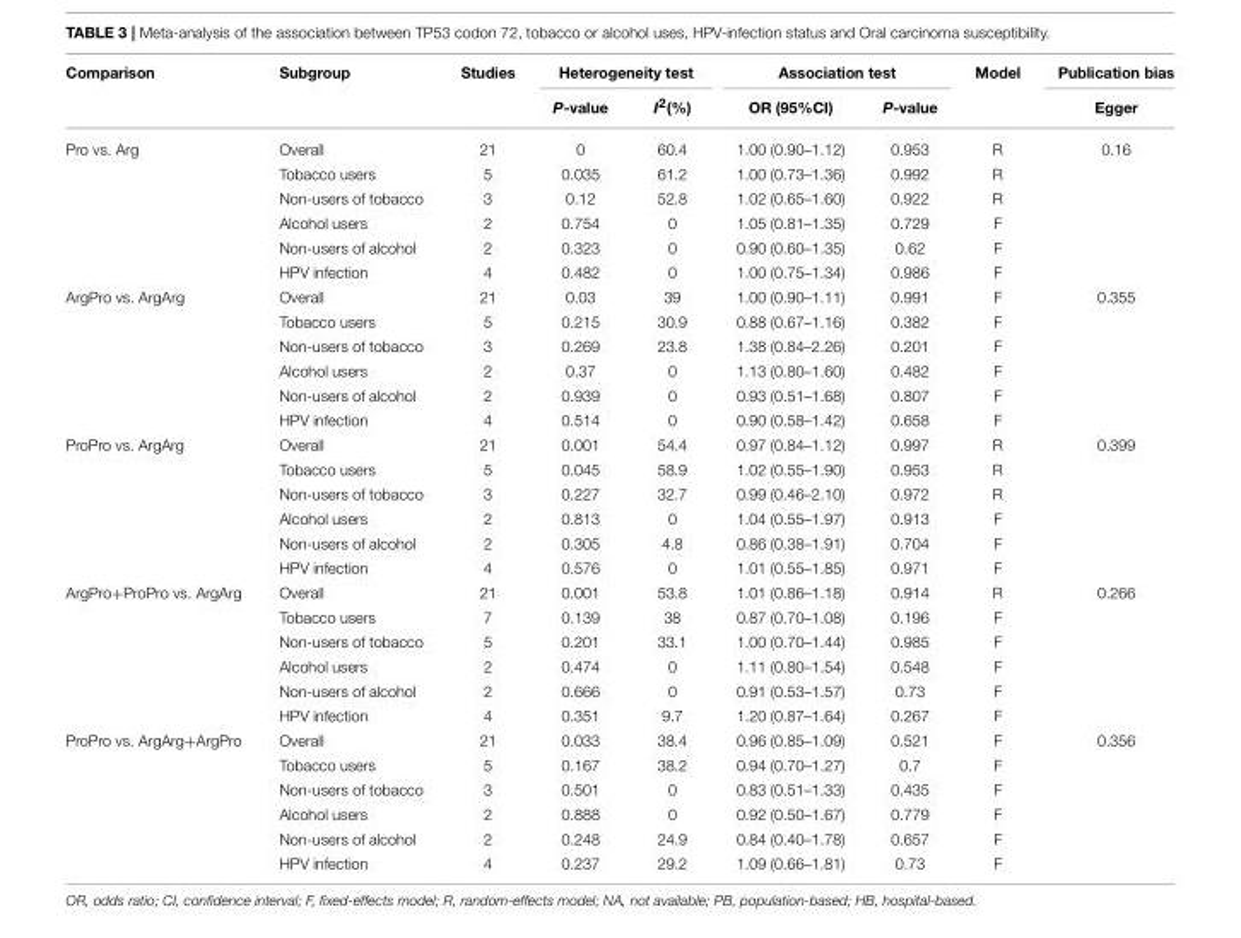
<table><thead><tr><td rowspan="2">Comparison</td><td rowspan="2">Subgroup</td><td rowspan="2">Studies</td><td colspan="2">Heterogeneity test</td><td colspan="2">Association test</td><td rowspan="2">Model</td><td rowspan="2">Publication bias Egger</td></tr><tr><td>P-value</td><td>I<sup>2</sup>(%)</td><td>OR (95%CI)</td><td>P-value</td></tr></thead><tbody><tr><td rowspan="6">Pro vs. Arg</td><td>Overall</td><td>21</td><td>0</td><td>60.4</td><td>1.00 (0.90–1.12)</td><td>0.953</td><td>R</td><td>0.16</td></tr><tr><td>Tobacco users</td><td>5</td><td>0.035</td><td>61.2</td><td>1.00 (0.73–1.36)</td><td>0.992</td><td>R</td><td></td></tr><tr><td>Non-users of tobacco</td><td>3</td><td>0.12</td><td>52.8</td><td>1.02 (0.65–1.60)</td><td>0.922</td><td>R</td><td></td></tr><tr><td>Alcohol users</td><td>2</td><td>0.754</td><td>0</td><td>1.05 (0.81–1.35)</td><td>0.729</td><td>F</td><td></td></tr><tr><td>Non-users of alcohol</td><td>2</td><td>0.323</td><td>0</td><td>0.90 (0.60–1.35)</td><td>0.62</td><td>F</td><td></td></tr><tr><td>HPV infection</td><td>4</td><td>0.482</td><td>0</td><td>1.00 (0.75–1.34)</td><td>0.986</td><td>F</td><td></td></tr><tr><td rowspan="6">ArgPro vs. ArgArg</td><td>Overall</td><td>21</td><td>0.03</td><td>39</td><td>1.00 (0.90–1.11)</td><td>0.991</td><td>F</td><td>0.355</td></tr><tr><td>Tobacco users</td><td>5</td><td>0.215</td><td>30.9</td><td>0.88 (0.67–1.16)</td><td>0.382</td><td>F</td><td></td></tr><tr><td>Non-users of tobacco</td><td>3</td><td>0.269</td><td>23.8</td><td>1.38 (0.84–2.26)</td><td>0.201</td><td>F</td><td></td></tr><tr><td>Alcohol users</td><td>2</td><td>0.37</td><td>0</td><td>1.13 (0.80–1.60)</td><td>0.482</td><td>F</td><td></td></tr><tr><td>Non-users of alcohol</td><td>2</td><td>0.939</td><td>0</td><td>0.93 (0.51–1.68)</td><td>0.807</td><td>F</td><td></td></tr><tr><td>HPV infection</td><td>4</td><td>0.514</td><td>0</td><td>0.90 (0.58–1.42)</td><td>0.658</td><td>F</td><td></td></tr><tr><td rowspan="6">ProPro vs. ArgArg</td><td>Overall</td><td>21</td><td>0.001</td><td>54.4</td><td>0.97 (0.84–1.12)</td><td>0.997</td><td>R</td><td>0.399</td></tr><tr><td>Tobacco users</td><td>5</td><td>0.045</td><td>58.9</td><td>1.02 (0.55–1.90)</td><td>0.953</td><td>R</td><td></td></tr><tr><td>Non-users of tobacco</td><td>3</td><td>0.227</td><td>32.7</td><td>0.99 (0.46–2.10)</td><td>0.972</td><td>R</td><td></td></tr><tr><td>Alcohol users</td><td>2</td><td>0.813</td><td>0</td><td>1.04 (0.55–1.97)</td><td>0.913</td><td>F</td><td></td></tr><tr><td>Non-users of alcohol</td><td>2</td><td>0.305</td><td>4.8</td><td>0.86 (0.38–1.91)</td><td>0.704</td><td>F</td><td></td></tr><tr><td>HPV infection</td><td>4</td><td>0.576</td><td>0</td><td>1.01 (0.55–1.85)</td><td>0.971</td><td>F</td><td></td></tr><tr><td rowspan="6">ArgPro+ProPro vs. ArgArg</td><td>Overall</td><td>21</td><td>0.001</td><td>53.8</td><td>1.01 (0.86–1.18)</td><td>0.914</td><td>R</td><td>0.266</td></tr><tr><td>Tobacco users</td><td>7</td><td>0.139</td><td>38</td><td>0.87 (0.70–1.08)</td><td>0.196</td><td>F</td><td></td></tr><tr><td>Non-users of tobacco</td><td>5</td><td>0.201</td><td>33.1</td><td>1.00 (0.70–1.44)</td><td>0.985</td><td>F</td><td></td></tr><tr><td>Alcohol users</td><td>2</td><td>0.474</td><td>0</td><td>1.11 (0.80–1.54)</td><td>0.548</td><td>F</td><td></td></tr><tr><td>Non-users of alcohol</td><td>2</td><td>0.666</td><td>0</td><td>0.91 (0.53–1.57)</td><td>0.73</td><td>F</td><td></td></tr><tr><td>HPV infection</td><td>4</td><td>0.351</td><td>9.7</td><td>1.20 (0.87–1.64)</td><td>0.267</td><td>F</td><td></td></tr><tr><td rowspan="6">ProPro vs. ArgArg+ArgPro</td><td>Overall</td><td>21</td><td>0.033</td><td>38.4</td><td>0.96 (0.85–1.09)</td><td>0.521</td><td>F</td><td>0.356</td></tr><tr><td>Tobacco users</td><td>5</td><td>0.167</td><td>38.2</td><td>0.94 (0.70–1.27)</td><td>0.7</td><td>F</td><td></td></tr><tr><td>Non-users of tobacco</td><td>3</td><td>0.501</td><td>0</td><td>0.83 (0.51–1.33)</td><td>0.435</td><td>F</td><td></td></tr><tr><td>Alcohol users</td><td>2</td><td>0.888</td><td>0</td><td>0.92 (0.50–1.67)</td><td>0.779</td><td>F</td><td></td></tr><tr><td>Non-users of alcohol</td><td>2</td><td>0.248</td><td>24.9</td><td>0.84 (0.40–1.78)</td><td>0.657</td><td>F</td><td></td></tr><tr><td>HPV infection</td><td>4</td><td>0.237</td><td>29.2</td><td>1.09 (0.66–1.81)</td><td>0.73</td><td>F</td><td></td></tr></tbody></table>